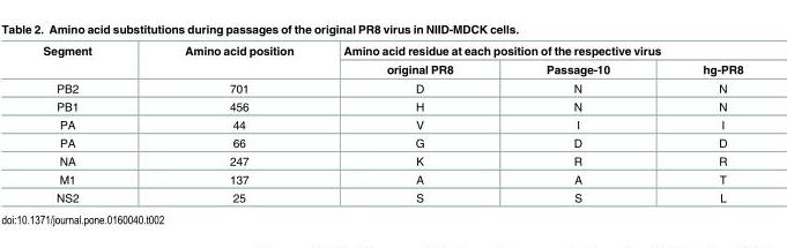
<table><thead><tr><td rowspan="2">Segment</td><td rowspan="2">Amino acid position</td><td colspan="3">Amino acid residue at each position of the respective virus</td></tr><tr><td>original PR8</td><td>Passage-10</td><td>hg-PR8</td></tr></thead><tbody><tr><td>PB2</td><td>701</td><td>D</td><td>N</td><td>N</td></tr><tr><td>PB1</td><td>456</td><td>H</td><td>N</td><td>N</td></tr><tr><td>PA</td><td>44</td><td>V</td><td>I</td><td>I</td></tr><tr><td>PA</td><td>66</td><td>G</td><td>D</td><td>D</td></tr><tr><td>NA</td><td>247</td><td>K</td><td>R</td><td>R</td></tr><tr><td>M1</td><td>137</td><td>A</td><td>A</td><td>T</td></tr><tr><td>NS2</td><td>25</td><td>S</td><td>S</td><td>L</td></tr></tbody></table>